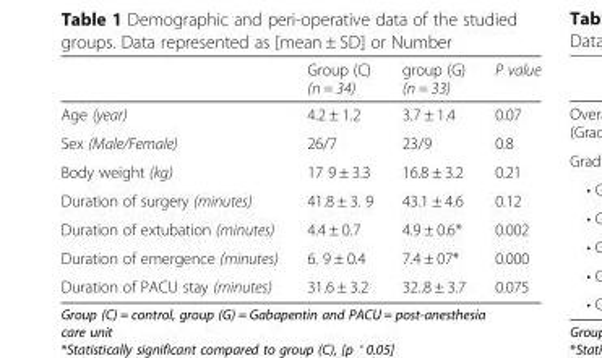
<table><thead><tr><td></td><td>Group (C) (n = 34)</td><td>group (G) (n = 33)</td><td>P value</td></tr></thead><tbody><tr><td>Age (year)</td><td>4.2 ± 1.2</td><td>3.7 ± 1.4</td><td>0.07</td></tr><tr><td>Sex (Male/Female)</td><td>26/7</td><td>23/9</td><td>0.8</td></tr><tr><td>Body weight (kg)</td><td>17 9 ± 3.3</td><td>16.8 ± 3.2</td><td>0.21</td></tr><tr><td>Duration of surgery (minutes)</td><td>41.8 ± 3. 9</td><td>43.1 ± 4.6</td><td>0.12</td></tr><tr><td>Duration of extubation (minutes)</td><td>4.4 ± 0.7</td><td>4.9 ± 0.6*</td><td>0.002</td></tr><tr><td>Duration of emergence (minutes)</td><td>6. 9 ± 0.4</td><td>7.4 ± 07*</td><td>0.000</td></tr><tr><td>Duration of PACU stay (minutes)</td><td>31.6 ± 3.2</td><td>32..8 ± 3.7</td><td>0.075</td></tr></tbody></table>